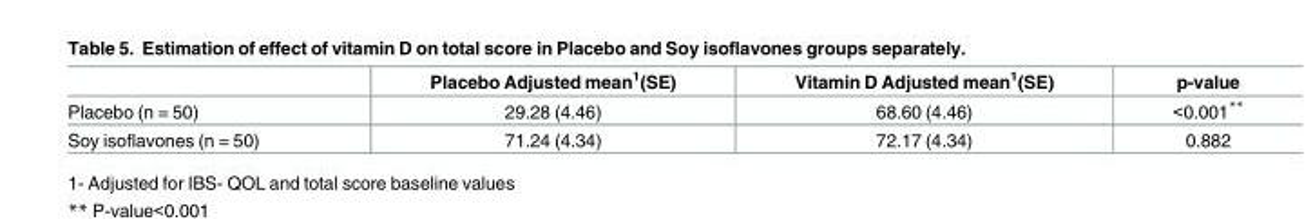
<table><thead><tr><td></td><td>Placebo Adjusted mean<sup>1</sup>(SE)</td><td>Vitamin D Adjusted mean<sup>1</sup>(SE)</td><td>p-value</td></tr></thead><tbody><tr><td>Placebo (n = 50)</td><td>29.28 (4.46)</td><td>68.60 (4.46)</td><td>&lt;0.001**</td></tr><tr><td>Soy isoflavones (n = 50)</td><td>71.24 (4.34)</td><td>72.17 (4.34)</td><td>0.882</td></tr></tbody></table>